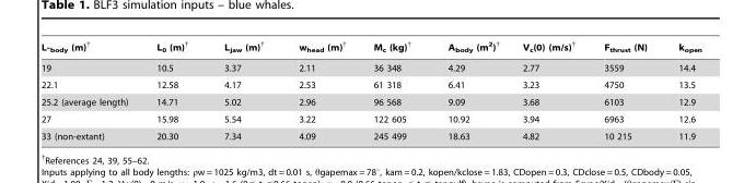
<table><thead><tr><td>L-body (m){</td><td>L<sub>0</sub> (m)†</td><td>L<sub>jaw</sub> (m)†</td><td>w<sub>head</sub> (m)†</td><td>M<sub>c</sub> (kg)†</td><td>A<sub>body</sub> (m<sup>2</sup>)†</td><td>V<sub>c</sub>(0) (m/s)†</td><td>F<sub>thrust</sub> (N)</td><td>k<sub>open</sub></td></tr></thead><tbody><tr><td>19</td><td>10.5</td><td>3.37</td><td>2.11</td><td>36 348</td><td>4.29</td><td>2.77</td><td>3559</td><td>14.4</td></tr><tr><td>22.1</td><td>12.58</td><td>4.17</td><td>2.53</td><td>61 318</td><td>6.41</td><td>3.23</td><td>4750</td><td>13.5</td></tr><tr><td>25.2 (average length)</td><td>14.71</td><td>5.02</td><td>2.96</td><td>96 568</td><td>9.09</td><td>3.68</td><td>6103</td><td>12.9</td></tr><tr><td>27</td><td>15.98</td><td>5.54</td><td>3.22</td><td>122 605</td><td>10.92</td><td>3.94</td><td>6963</td><td>12.6</td></tr><tr><td>33 (non-extant)</td><td>20.30</td><td>7.34</td><td>4.09</td><td>245 499</td><td>18.63</td><td>4.82</td><td>10 215</td><td>11.9</td></tr></tbody></table>